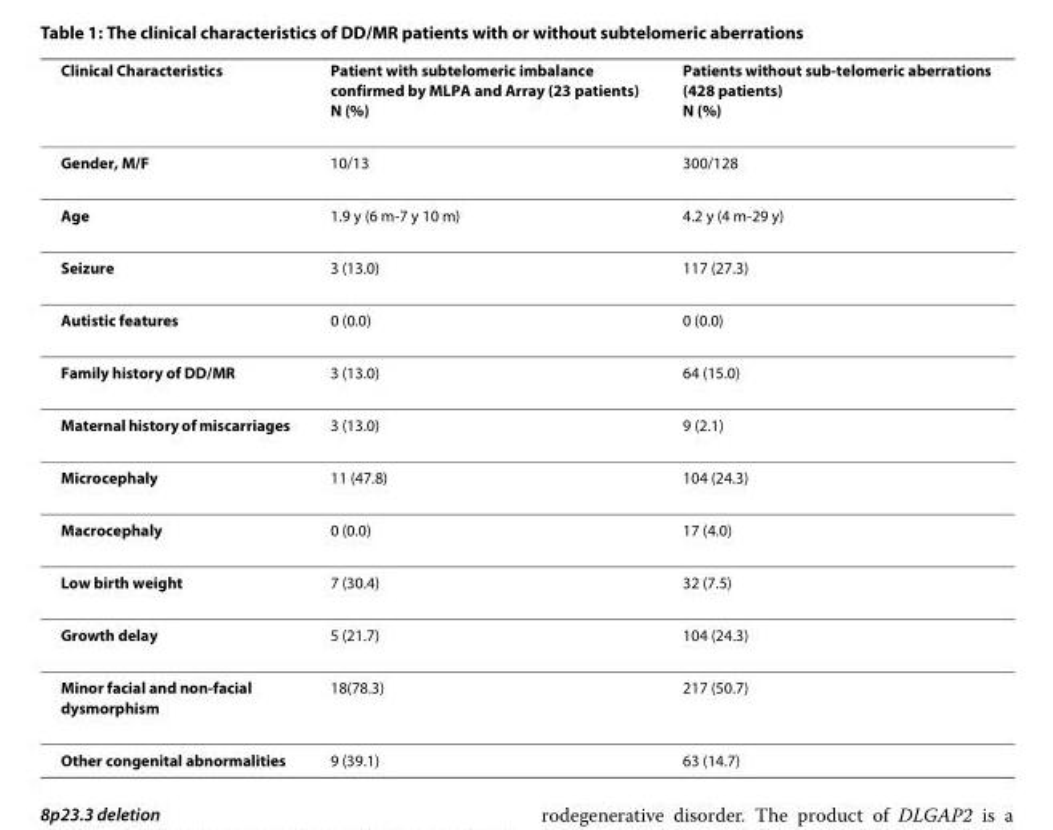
<table><thead><tr><td>Clinical Characteristics</td><td>Patient with subtelomeric imbalance confirmed by MLPA and Array (23 patients) N (%)</td><td>Patients without sub-telomeric aberrations (428 patients) N (%)</td></tr></thead><tbody><tr><td>Gender, M/F</td><td>10/13</td><td>300/128</td></tr><tr><td>Age</td><td>1.9 y (6 m-7 y 10 m)</td><td>4.2 y (4 m-29 y)</td></tr><tr><td>Seizure</td><td>3 (13.0)</td><td>117 (27.3)</td></tr><tr><td>Autistic features</td><td>0 (0.0)</td><td>0 (0.0)</td></tr><tr><td>Family history of DD/MR</td><td>3 (13.0)</td><td>64 (15.0)</td></tr><tr><td>Maternal history of miscarriages</td><td>3 (13.0)</td><td>9 (2.1)</td></tr><tr><td>Microcephaly</td><td>11 (47.8)</td><td>104 (24.3)</td></tr><tr><td>Macrocephaly</td><td>0 (0.0)</td><td>17 (4.0)</td></tr><tr><td>Low birth weight</td><td>7 (30.4)</td><td>32 (7.5)</td></tr><tr><td>Growth delay</td><td>5 (21.7)</td><td>104 (24.3)</td></tr><tr><td>Minor facial and non-facial dysmorphism</td><td>18(78.3)</td><td>217 (50.7)</td></tr><tr><td>Other congenital abnormalities</td><td>9 (39.1)</td><td>63 (14.7)</td></tr></tbody></table>